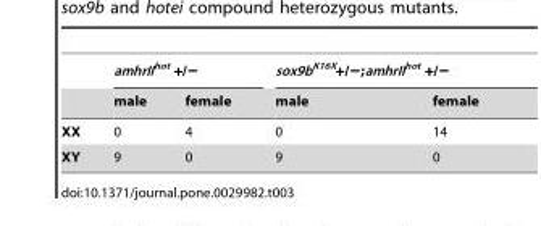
<table><thead><tr><td rowspan="2"></td><td colspan="2">amhrII<sup>hot</sup> +/−</td><td colspan="2">sox9b<sup>K16X</sup>+/−;amhrII<sup>hot</sup> +/−</td></tr><tr><td>male</td><td>female</td><td>male</td><td>female</td></tr></thead><tbody><tr><td>XX</td><td>0</td><td>4</td><td>0</td><td>14</td></tr><tr><td>XY</td><td>9</td><td>0</td><td>9</td><td>0</td></tr></tbody></table>